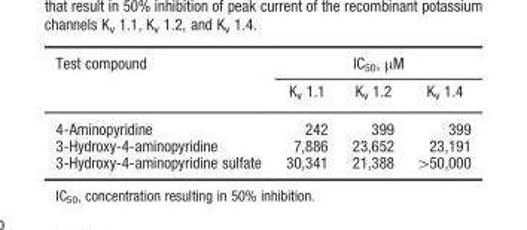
<table><thead><tr><td rowspan="2">Test compound</td><td colspan="3">IC<sub>50</sub>, µM</td></tr><tr><td>K<sub>v</sub> 1.1</td><td>K<sub>v</sub> 1.2</td><td>K<sub>v</sub> 1.4</td></tr></thead><tbody><tr><td>4-Aminopyridine</td><td>242</td><td>399</td><td>399</td></tr><tr><td>3-Hydroxy-4-aminopyridine</td><td>7,886</td><td>23,652</td><td>23,191</td></tr><tr><td>3-Hydroxy-4-aminopyridine sulfate</td><td>30,341</td><td>21,388</td><td>&gt;50,000</td></tr></tbody></table>